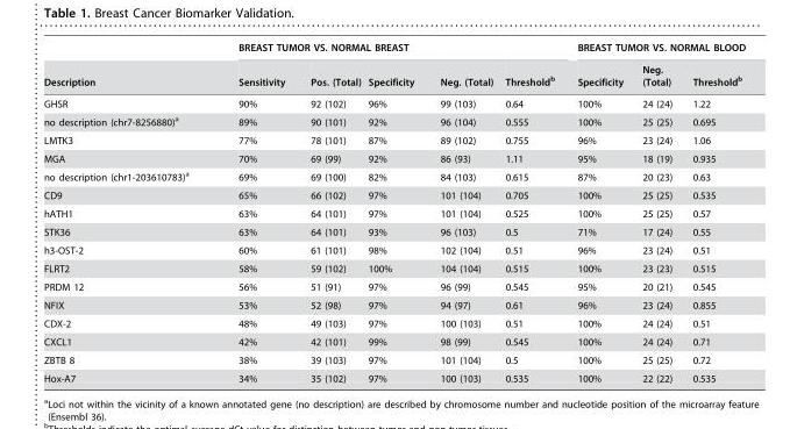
<table><thead><tr><td rowspan="2">Description</td><td colspan="5">BREAST TUMOR VS. NORMAL BREAST</td><td colspan="3">BREAST TUMOR VS. NORMAL BLOOD</td></tr><tr><td>Sensitivity</td><td>Pos. (Total)</td><td>Specificity</td><td>Neg. (Total)</td><td>Threshold<sup>b</sup></td><td>Specificity</td><td>Neg. (Total)</td><td>Threshold<sup>b</sup></td></tr></thead><tbody><tr><td>GHSR</td><td>90%</td><td>92 (102)</td><td>96%</td><td>99 (103)</td><td>0.64</td><td>100%</td><td>24 (24)</td><td>1.22</td></tr><tr><td>no description (chr7-8256880)<sup>a</sup></td><td>89%</td><td>90 (101)</td><td>92%</td><td>96 (104)</td><td>0.555</td><td>100%</td><td>25 (25)</td><td>0.695</td></tr><tr><td>LMTK3</td><td>77%</td><td>78 (101)</td><td>87%</td><td>89 (102)</td><td>0.755</td><td>96%</td><td>23 (24)</td><td>1.06</td></tr><tr><td>MGA</td><td>70%</td><td>69 (99)</td><td>92%</td><td>86 (93)</td><td>1.11</td><td>95%</td><td>18 (19)</td><td>0.935</td></tr><tr><td>no description (chr1-203610783)<sup>a</sup></td><td>69%</td><td>69 (100)</td><td>82%</td><td>84 (103)</td><td>0.615</td><td>87%</td><td>20 (23)</td><td>0.63</td></tr><tr><td>CD9</td><td>65%</td><td>66 (102)</td><td>97%</td><td>101 (104)</td><td>0.705</td><td>100%</td><td>25 (25)</td><td>0.535</td></tr><tr><td>hATH1</td><td>63%</td><td>64 (101)</td><td>97%</td><td>101 (104)</td><td>0.525</td><td>100%</td><td>25 (25)</td><td>0.57</td></tr><tr><td>STK36</td><td>63%</td><td>64 (101)</td><td>93%</td><td>96 (103)</td><td>0.5</td><td>71%</td><td>17 (24)</td><td>0.55</td></tr><tr><td>h3-OST-2</td><td>60%</td><td>61 (101)</td><td>98%</td><td>102 (104)</td><td>0.51</td><td>96%</td><td>23 (24)</td><td>0.51</td></tr><tr><td>FLRT2</td><td>58%</td><td>59 (102)</td><td>100%</td><td>104 (104)</td><td>0.515</td><td>100%</td><td>23 (23)</td><td>0.515</td></tr><tr><td>PRDM 12</td><td>56%</td><td>51 (91)</td><td>97%</td><td>96 (99)</td><td>0.545</td><td>95%</td><td>20 (21)</td><td>0.545</td></tr><tr><td>NFIX</td><td>53%</td><td>52 (98)</td><td>97%</td><td>94 (97)</td><td>0.61</td><td>96%</td><td>23 (24)</td><td>0.855</td></tr><tr><td>CDX-2</td><td>48%</td><td>49 (103)</td><td>97%</td><td>100 (103)</td><td>0.51</td><td>100%</td><td>24 (24)</td><td>0.51</td></tr><tr><td>CXCL1</td><td>42%</td><td>42 (101)</td><td>99%</td><td>98 (99)</td><td>0.545</td><td>100%</td><td>24 (24)</td><td>0.71</td></tr><tr><td>ZBTB 8</td><td>38%</td><td>39 (103)</td><td>97%</td><td>101 (104)</td><td>0.5</td><td>100%</td><td>25 (25)</td><td>0.72</td></tr><tr><td>Hox-A7</td><td>34%</td><td>35 (102)</td><td>97%</td><td>100 (103)</td><td>0.535</td><td>100%</td><td>22 (22)</td><td>0.535</td></tr></tbody></table>